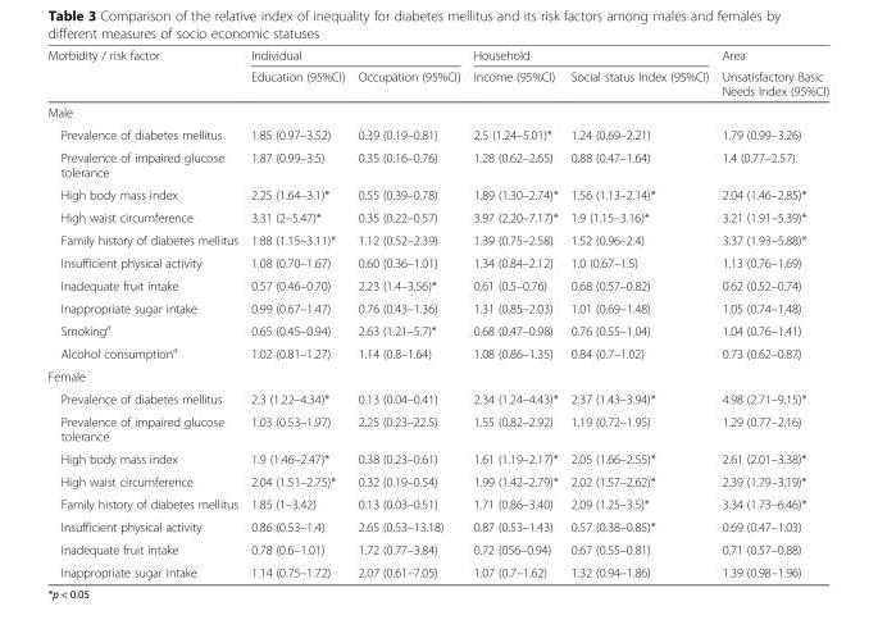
<table><thead><tr><td rowspan="2">Morbidity / risk factor</td><td colspan="2">Individual</td><td colspan="2">Household</td><td rowspan="2">Area Unsatisfactory Basic Needs Index (95%CI)</td></tr><tr><td>Education (95%CI)</td><td>Occupation (95%CI)</td><td>Income (95%CI)</td><td>Social status Index (95%CI)</td></tr></thead><tbody><tr><td colspan="6">Male</td></tr><tr><td>Prevalence of diabetes mellitus</td><td>1.85 (0.97–3.52)</td><td>0.39 (0.19–0.81)</td><td>2.5 (1.24–5.01)*</td><td>1.24 (0.69–2.21)</td><td>1.79 (0.99–3.26)</td></tr><tr><td>Prevalence of impaired glucose tolerance</td><td>1.87 (0.99–3.5)</td><td>0.35 (0.16–0.76)</td><td>1.28 (0.62–2.65)</td><td>0.88 (0.47–1.64)</td><td>1.4 (0.77–2.57)</td></tr><tr><td>High body mass index</td><td>2.25 (1.64–3.1)*</td><td>0.55 (0.39–0.78)</td><td>1.89 (1.30–2.74)*</td><td>1.56 (1.13–2.14)*</td><td>2.04 (1.46–2.85)*</td></tr><tr><td>High waist circumference</td><td>3.31 (2–5.47)*</td><td>0.35 (0.22–0.57)</td><td>3.97 (2.20–7.17)*</td><td>1.9 (1.15–3.16)*</td><td>3.21 (1.91–5.39)*</td></tr><tr><td>Family history of diabetes mellitus</td><td>1.88 (1.15–3.11)*</td><td>1.12 (0.52–2.39)</td><td>1.39 (0.75–2.58)</td><td>1.52 (0.96–2.4)</td><td>3.37 (1.93–5.88)*</td></tr><tr><td>Insufficient physical activity</td><td>1.08 (0.70–1.67)</td><td>0.60 (0.36–1.01)</td><td>1.34 (0.84–2.12)</td><td>1.0 (0.67–1.5)</td><td>1.13 (0.76–1.69)</td></tr><tr><td>Inadequate fruit intake</td><td>0.57 (0.46–0.70)</td><td>2.23 (1.4–3.56)*</td><td>0.61 (0.5–0.76)</td><td>0.68 (0.57–0.82)</td><td>0.62 (0.52–0.74)</td></tr><tr><td>Inappropriate sugar intake</td><td>0.99 (0.67–1.47)</td><td>0.76 (0.43–1.36)</td><td>1.31 (0.85–2.03)</td><td>1.01 (0.69–1.48)</td><td>1.05 (0.74–1.48)</td></tr><tr><td>Smoking<sup>a</sup></td><td>0.65 (0.45–0.94)</td><td>2.63 (1.21–5.7)*</td><td>0.68 (0.47–0.98)</td><td>0.76 (0.55–1.04)</td><td>1.04 (0.76–1.41)</td></tr><tr><td>Alcohol consumption<sup>a</sup></td><td>1.02 (0.81–1.27)</td><td>1.14 (0.8–1.64)</td><td>1.08 (0.86–1.35)</td><td>0.84 (0.7–1.02)</td><td>0.73 (0.62–0.87)</td></tr><tr><td colspan="6">Female</td></tr><tr><td>Prevalence of diabetes mellitus</td><td>2.3 (1.22–4.34)*</td><td>0.13 (0.04–0.41)</td><td>2.34 (1.24–4.43)*</td><td>2.37 (1.43–3.94)*</td><td>4.98 (2.71–9.15)*</td></tr><tr><td>Prevalence of impaired glucose tolerance</td><td>1.03 (0.53–1.97)</td><td>2.25 (0.23–22.5)</td><td>1.55 (0.82–2.92)</td><td>1.19 (0.72–1.95)</td><td>1.29 (0.77–2.16)</td></tr><tr><td>High body mass index</td><td>1.9 (1.46–2.47)*</td><td>0.38 (0.23–0.61)</td><td>1.61 (1.19–2.17)*</td><td>2.05 (1.66–2.55)*</td><td>2.61 (2.01–3.38)*</td></tr><tr><td>High waist circumference</td><td>2.04 (1.51–2.75)*</td><td>0.32 (0.19–0.54)</td><td>1.99 (1.42–2.79)*</td><td>2.02 (1.57–2.62)*</td><td>2.39 (1.79–3.19)*</td></tr><tr><td>Family history of diabetes mellitus</td><td>1.85 (1–3.42)</td><td>0.13 (0.03–0.51)</td><td>1.71 (0.86–3.40)</td><td>2.09 (1.25–3.5)*</td><td>3.34 (1.73–6.46)*</td></tr><tr><td>Insufficient physical activity</td><td>0.86 (0.53–1.4)</td><td>2.65 (0.53–13.18)</td><td>0.87 (0.53–1.43)</td><td>0.57 (0.38–0.85)*</td><td>0.69 (0.47–1.03)</td></tr><tr><td>Inadequate fruit intake</td><td>0.78 (0.6–1.01)</td><td>1.72 (0.77–3.84)</td><td>0.72 (056–0.94)</td><td>0.67 (0.55–0.81)</td><td>0.71 (0.57–0.88)</td></tr><tr><td>Inappropriate sugar intake</td><td>1.14 (0.75–1.72)</td><td>2.07 (0.61–7.05)</td><td>1.07 (0.7–1.62)</td><td>1.32 (0.94–1.86)</td><td>1.39 (0.98–1.96)</td></tr></tbody></table>